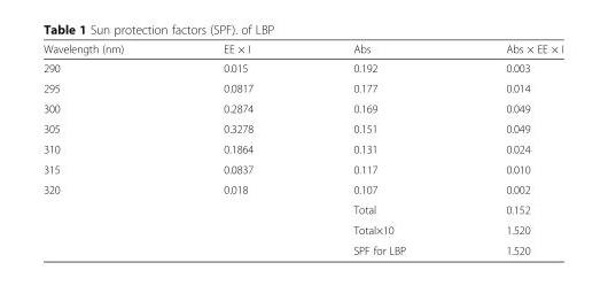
<table><thead><tr><td>Wavelength (nm)</td><td>EE × I</td><td>Abs</td><td>Abs × EE × I</td></tr></thead><tbody><tr><td>290</td><td>0.015</td><td>0.192</td><td>0.003</td></tr><tr><td>295</td><td>0.0817</td><td>0.177</td><td>0.014</td></tr><tr><td>300</td><td>0.2874</td><td>0.169</td><td>0.049</td></tr><tr><td>305</td><td>0.3278</td><td>0.151</td><td>0.049</td></tr><tr><td>310</td><td>0.1864</td><td>0.131</td><td>0.024</td></tr><tr><td>315</td><td>0.0837</td><td>0.117</td><td>0.010</td></tr><tr><td rowspan="4">320</td><td>0.018</td><td>0.107</td><td>0.002</td></tr><tr><td></td><td>Total</td><td>0.152</td></tr><tr><td></td><td>Total×10</td><td>1.520</td></tr><tr><td></td><td>SPF for LBP</td><td>1.520</td></tr></tbody></table>